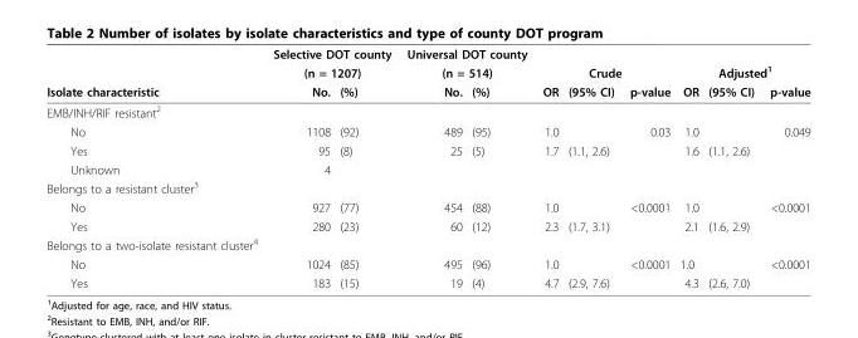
<table><thead><tr><td rowspan="3">Isolate characteristic</td><td rowspan="2" colspan="2">Selective DOT county (n = 1207)</td><td rowspan="2" colspan="2">Universal DOT county (n = 514)</td><td></td><td></td><td></td><td></td><td></td><td></td></tr><tr><td colspan="3">Crude</td><td colspan="3">Adjusted<sup>1</sup></td></tr><tr><td>No.</td><td>(%)</td><td>No.</td><td>(%)</td><td>OR</td><td>(95% CI)</td><td>p-value</td><td>OR</td><td>(95% CI)</td><td>p-value</td></tr></thead><tbody><tr><td colspan="11">EMB/INH/RIF resistant<sup>2</sup></td></tr><tr><td>No</td><td>1108</td><td>(92)</td><td>489</td><td>(95)</td><td>1.0</td><td></td><td>0.03</td><td>1.0</td><td></td><td>0.049</td></tr><tr><td>Yes</td><td>95</td><td>(8)</td><td>25</td><td>(5)</td><td>1.7</td><td>(1.1, 2.6)</td><td></td><td>1.6</td><td>(1.1, 2.6)</td><td></td></tr><tr><td>Unknown</td><td>4</td><td></td><td></td><td></td><td></td><td></td><td></td><td></td><td></td><td></td></tr><tr><td colspan="11">Belongs to a resistant cluster<sup>3</sup></td></tr><tr><td>No</td><td>927</td><td>(77)</td><td>454</td><td>(88)</td><td>1.0</td><td></td><td>&lt;0.0001</td><td>1.0</td><td></td><td>&lt;0.0001</td></tr><tr><td>Yes</td><td>280</td><td>(23)</td><td>60</td><td>(12)</td><td>2.3</td><td>(1.7, 3.1)</td><td></td><td>2.1</td><td>(1.6, 2.9)</td><td></td></tr><tr><td colspan="11">Belongs to a two-isolate resistant cluster<sup>4</sup></td></tr><tr><td>No</td><td>1024</td><td>(85)</td><td>495</td><td>(96)</td><td>1.0</td><td></td><td>&lt;0.0001</td><td>1.0</td><td></td><td>&lt;0.0001</td></tr><tr><td>Yes</td><td>183</td><td>(15)</td><td>19</td><td>(4)</td><td>4.7</td><td>(2.9, 7.6)</td><td></td><td>4.3</td><td>(2.6, 7.0)</td><td></td></tr></tbody></table>